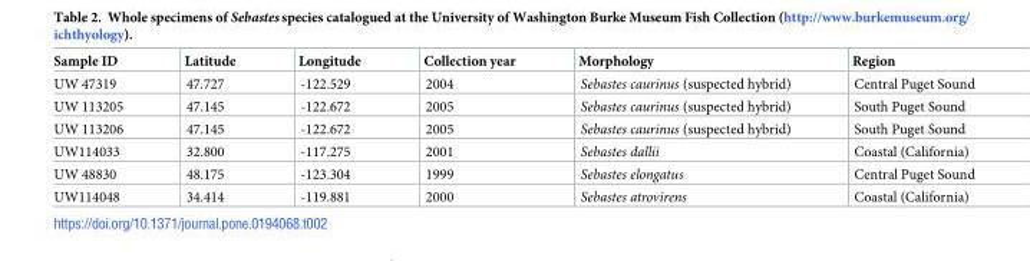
<table><thead><tr><td>Sample ID</td><td>Latitude</td><td>Longitude</td><td>Collection year</td><td>Morphology</td><td>Region</td></tr></thead><tbody><tr><td>UW 47319</td><td>47.727</td><td>-122.529</td><td>2004</td><td>Sebastes caurinus (suspected hybrid)</td><td>Central Puget Sound</td></tr><tr><td>UW 113205</td><td>47.145</td><td>-122.672</td><td>2005</td><td>Sebastes caurinus (suspected hybrid)</td><td>South Puget Sound</td></tr><tr><td>UW 113206</td><td>47.145</td><td>-122.672</td><td>2005</td><td>Sebastes caurinus (suspected hybrid)</td><td>South Puget Sound</td></tr><tr><td>UW114033</td><td>32.800</td><td>-117.275</td><td>2001</td><td>Sebastes dallii</td><td>Coastal (California)</td></tr><tr><td>UW 48830</td><td>48.175</td><td>-123.304</td><td>1999</td><td>Sebastes elongatus</td><td>Central Puget Sound</td></tr><tr><td>UW114048</td><td>34.414</td><td>-119.881</td><td>2000</td><td>Sebastes atrovirens</td><td>Coastal (California)</td></tr></tbody></table>